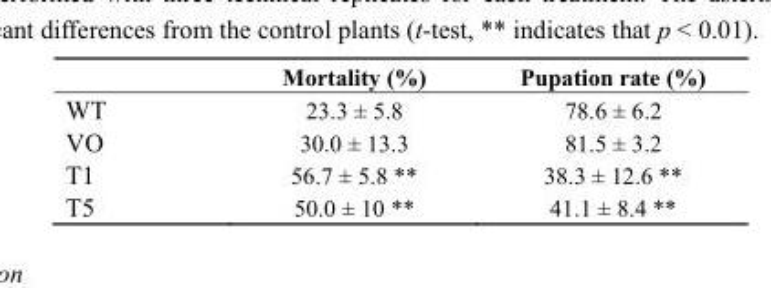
<table><thead><tr><td></td><td>Mortality (%)</td><td>Pupation rate (%)</td></tr></thead><tbody><tr><td>WT</td><td>23.3 ± 5.8</td><td>78.6 ± 6.2</td></tr><tr><td>VO</td><td>30.0 ± 13.3</td><td>81.5 ± 3.2</td></tr><tr><td>T1</td><td>56.7 ± 5.8 **</td><td>38.3 ± 12.6 **</td></tr><tr><td>T5</td><td>50.0 ± 10 **</td><td>41.1 ± 8.4 **</td></tr></tbody></table>